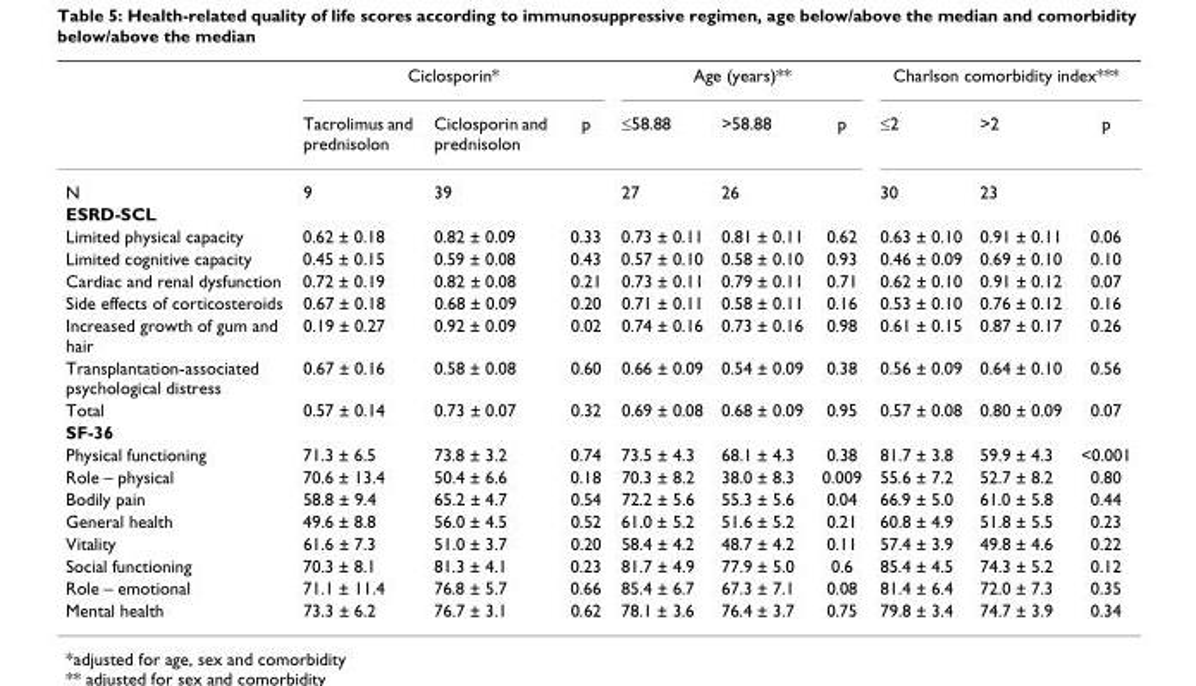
<table><thead><tr><td rowspan="2"></td><td colspan="3">Ciclosporin*</td><td colspan="3">Age (years)**</td><td colspan="3">Charlson comorbidity index***</td></tr><tr><td>Tacrolimus and prednisolon</td><td>Ciclosporin and prednisolon</td><td>p</td><td>≤58.88</td><td>&gt;58.88</td><td>p</td><td>≤2</td><td>&gt;2</td><td>p</td></tr></thead><tbody><tr><td>N</td><td>9</td><td>39</td><td></td><td>27</td><td>26</td><td></td><td>30</td><td>23</td><td></td></tr><tr><td colspan="10">ESRD-SCL</td></tr><tr><td>Limited physical capacity</td><td>0.62 ± 0.18</td><td>0.82 ± 0.09</td><td>0.33</td><td>0.73 ± 0.11</td><td>0.81 ± 0.11</td><td>0.62</td><td>0.63 ± 0.10</td><td>0.91 ± 0.11</td><td>0.06</td></tr><tr><td>Limited cognitive capacity</td><td>0.45 ± 0.15</td><td>0.59 ± 0.08</td><td>0.43</td><td>0.57 ± 0.10</td><td>0.58 ± 0.10</td><td>0.93</td><td>0.46 ± 0.09</td><td>0.69 ± 0.10</td><td>0.10</td></tr><tr><td>Cardiac and renal dysfunction</td><td>0.72 ± 0.19</td><td>0.82 ± 0.08</td><td>0.21</td><td>0.73 ± 0.11</td><td>0.79 ± 0.11</td><td>0.71</td><td>0.62 ± 0.10</td><td>0.91 ± 0.12</td><td>0.07</td></tr><tr><td>Side effects of corticosteroids</td><td>0.67 ± 0.18</td><td>0.68 ± 0.09</td><td>0.20</td><td>0.71 ± 0.11</td><td>0.58 ± 0.11</td><td>0.16</td><td>0.53 ± 0.10</td><td>0.76 ± 0.12</td><td>0.16</td></tr><tr><td>Increased growth of gum and hair</td><td>0.19 ± 0.27</td><td>0.92 ± 0.09</td><td>0.02</td><td>0.74 ± 0.16</td><td>0.73 ± 0.16</td><td>0.98</td><td>0.61 ± 0.15</td><td>0.87 ± 0.17</td><td>0.26</td></tr><tr><td>Transplantation-associated psychological distress</td><td>0.67 ± 0.16</td><td>0.58 ± 0.08</td><td>0.60</td><td>0.66 ± 0.09</td><td>0.54 ± 0.09</td><td>0.38</td><td>0.56 ± 0.09</td><td>0.64 ± 0.10</td><td>0.56</td></tr><tr><td>Total</td><td>0.57 ± 0.14</td><td>0.73 ± 0.07</td><td>0.32</td><td>0.69 ± 0.08</td><td>0.68 ± 0.09</td><td>0.95</td><td>0.57 ± 0.08</td><td>0.80 ± 0.09</td><td>0.07</td></tr><tr><td colspan="10">SF-36</td></tr><tr><td>Physical functioning</td><td>71.3 ± 6.5</td><td>73.8 ± 3.2</td><td>0.74</td><td>73.5 ± 4.3</td><td>68.1 ± 4.3</td><td>0.38</td><td>81.7 ± 3.8</td><td>59.9 ± 4.3</td><td>&lt;0.001</td></tr><tr><td>Role – physical</td><td>70.6 ± 13.4</td><td>50.4 ± 6.6</td><td>0.18</td><td>70.3 ± 8.2</td><td>38.0 ± 8.3</td><td>0.009</td><td>55.6 ± 7.2</td><td>52.7 ± 8.2</td><td>0.80</td></tr><tr><td>Bodily pain</td><td>58.8 ± 9.4</td><td>65.2 ± 4.7</td><td>0.54</td><td>72.2 ± 5.6</td><td>55.3 ± 5.6</td><td>0.04</td><td>66.9 ± 5.0</td><td>61.0 ± 5.8</td><td>0.44</td></tr><tr><td>General health</td><td>49.6 ± 8.8</td><td>56.0 ± 4.5</td><td>0.52</td><td>61.0 ± 5.2</td><td>51.6 ± 5.2</td><td>0.21</td><td>60.8 ± 4.9</td><td>51.8 ± 5.5</td><td>0.23</td></tr><tr><td>Vitality</td><td>61.6 ± 7.3</td><td>51.0 ± 3.7</td><td>0.20</td><td>58.4 ± 4.2</td><td>48.7 ± 4.2</td><td>0.11</td><td>57.4 ± 3.9</td><td>49.8 ± 4.6</td><td>0.22</td></tr><tr><td>Social functioning</td><td>70.3 ± 8.1</td><td>81.3 ± 4.1</td><td>0.23</td><td>81.7 ± 4.9</td><td>77.9 ± 5.0</td><td>0.6</td><td>85.4 ± 4.5</td><td>74.3 ± 5.2</td><td>0.12</td></tr><tr><td>Role – emotional</td><td>71.1 ± 11.4</td><td>76.8 ± 5.7</td><td>0.66</td><td>85.4 ± 6.7</td><td>67.3 ± 7.1</td><td>0.08</td><td>81.4 ± 6.4</td><td>72.0 ± 7.3</td><td>0.35</td></tr><tr><td>Mental health</td><td>73.3 ± 6.2</td><td>76.7 ± 3.1</td><td>0.62</td><td>78.1 ± 3.6</td><td>76.4 ± 3.7</td><td>0.75</td><td>79.8 ± 3.4</td><td>74.7 ± 3.9</td><td>0.34</td></tr></tbody></table>